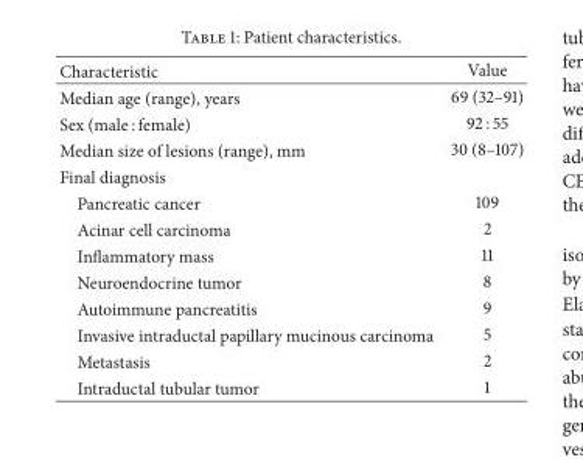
<table><thead><tr><td>Characteristic</td><td>Value</td></tr></thead><tbody><tr><td>Median age (range), years</td><td>69 (32–91)</td></tr><tr><td>Sex (male : female)</td><td>92 : 55</td></tr><tr><td>Median size of lesions (range), mm</td><td>30 (8–107)</td></tr><tr><td colspan="2">Final diagnosis</td></tr><tr><td>Pancreatic cancer</td><td>109</td></tr><tr><td>Acinar cell carcinoma</td><td>2</td></tr><tr><td>Inflammatory mass</td><td>11</td></tr><tr><td>Neuroendocrine tumor</td><td>8</td></tr><tr><td>Autoimmune pancreatitis</td><td>9</td></tr><tr><td>Invasive intraductal papillary mucinous carcinoma</td><td>5</td></tr><tr><td>Metastasis</td><td>2</td></tr><tr><td>Intraductal tubular tumor</td><td>1</td></tr></tbody></table>